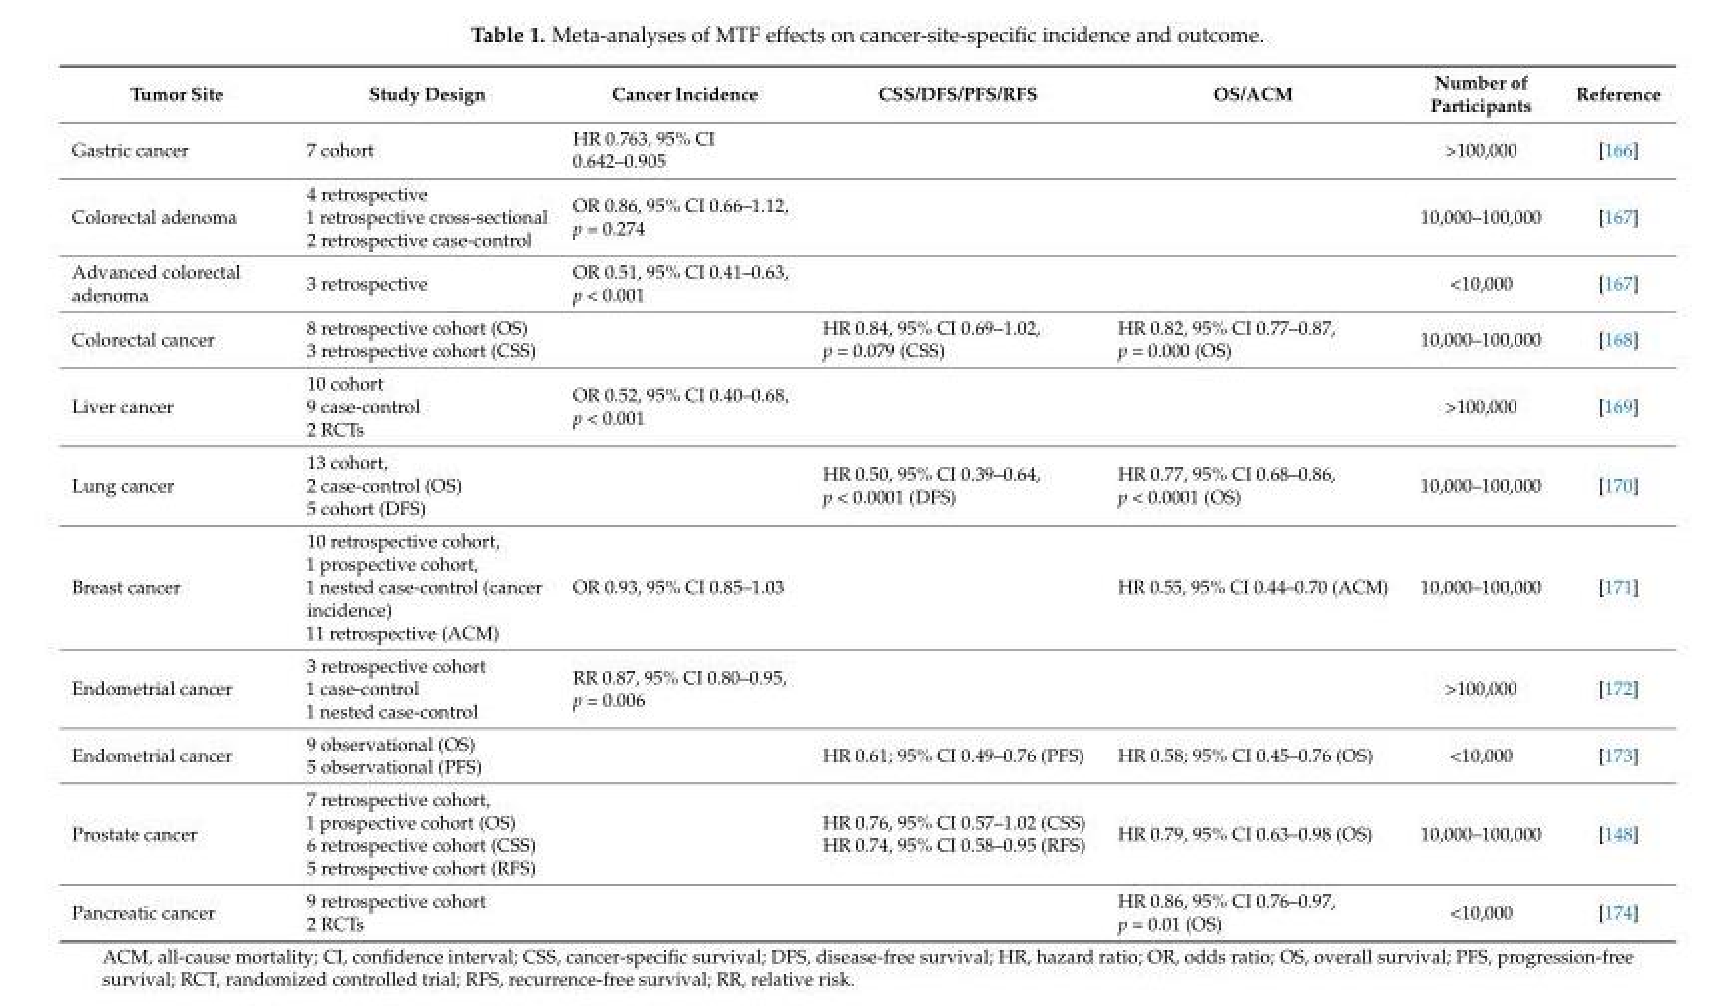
<table><thead><tr><td>Tumor Site</td><td>Study Design</td><td>Cancer Incidence</td><td>CSS/DFS/PFS/RFS</td><td>OS/ACM</td><td>Number of Participants</td><td>Reference</td></tr></thead><tbody><tr><td>Gastric cancer</td><td>7 cohort</td><td>HR 0.763, 95% CI 0.642–0.905</td><td></td><td></td><td>&gt;100,000</td><td>[166]</td></tr><tr><td>Colorectal adenoma</td><td>4 retrospective 1 retrospective cross-sectional 2 retrospective case-control</td><td>OR 0.86, 95% CI 0.66–1.12, p = 0.274</td><td></td><td></td><td>10,000–100,000</td><td>[167]</td></tr><tr><td>Advanced colorectal adenoma</td><td>3 retrospective</td><td>OR 0.51, 95% CI 0.41–0.63, p &lt; 0.001</td><td></td><td></td><td>&lt;10,000</td><td>[167]</td></tr><tr><td>Colorectal cancer</td><td>8 retrospective cohort (OS) 3 retrospective cohort (CSS)</td><td></td><td>HR 0.84, 95% CI 0.69–1.02, p = 0.079 (CSS)</td><td>HR 0.82, 95% CI 0.77–0.87, p = 0.000 (OS)</td><td>10,000–100,000</td><td>[168]</td></tr><tr><td>Liver cancer</td><td>10 cohort 9 case-control 2 RCTs</td><td>OR 0.52, 95% CI 0.40–0.68, p &lt; 0.001</td><td></td><td></td><td>&gt;100,000</td><td>[169]</td></tr><tr><td>Lung cancer</td><td>13 cohort, 2 case-control (OS) 5 cohort (DFS)</td><td></td><td>HR 0.50, 95% CI 0.39–0.64, p &lt; 0.0001 (DFS)</td><td>HR 0.77, 95% CI 0.68–0.86, p &lt; 0.0001 (OS)</td><td>10,000–100,000</td><td>[170]</td></tr><tr><td>Breast cancer</td><td>10 retrospective cohort, 1 prospective cohort, 1 nested case-control (cancer incidence) 11 retrospective (ACM)</td><td>OR 0.93, 95% CI 0.85–1.03</td><td></td><td>HR 0.55, 95% CI 0.44–0.70 (ACM)</td><td>10,000–100,000</td><td>[171]</td></tr><tr><td>Endometrial cancer</td><td>3 retrospective cohort 1 case-control 1 nested case-control</td><td>RR 0.87, 95% CI 0.80–0.95, p = 0.006</td><td></td><td></td><td>&gt;100,000</td><td>[172]</td></tr><tr><td>Endometrial cancer</td><td>9 observational (OS) 5 observational (PFS)</td><td></td><td>HR 0.61; 95% CI 0.49–0.76 (PFS)</td><td>HR 0.58; 95% CI 0.45–0.76 (OS)</td><td>&lt;10,000</td><td>[173]</td></tr><tr><td>Prostate cancer</td><td>7 retrospective cohort, 1 prospective cohort (OS) 6 retrospective cohort (CSS) 5 retrospective cohort (RFS)</td><td></td><td>HR 0.76, 95% CI 0.57–1.02 (CSS) HR 0.74, 95% CI 0.58–0.95 (RFS)</td><td>HR 0.79, 95% CI 0.63–0.98 (OS)</td><td>10,000–100,000</td><td>[148]</td></tr><tr><td>Pancreatic cancer</td><td>9 retrospective cohort 2 RCTs</td><td></td><td></td><td>HR 0.86, 95% CI 0.76–0.97, p = 0.01 (OS)</td><td>&lt;10,000</td><td>[174]</td></tr></tbody></table>